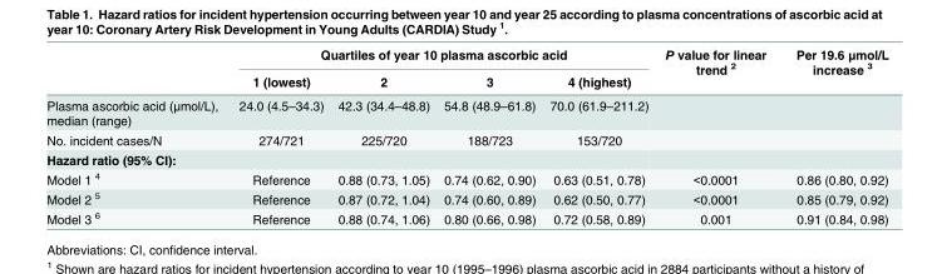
<table><thead><tr><td rowspan="2"></td><td colspan="4">Quartiles of year 10 plasma ascorbic acid</td><td rowspan="2">P value for linear trend <sup>2</sup></td><td rowspan="2">Per 19.6 μmol/L increase <sup>3</sup></td></tr><tr><td>1 (lowest)</td><td>2</td><td>3</td><td>4 (highest)</td></tr></thead><tbody><tr><td>Plasma ascorbic acid (μmol/L), median (range)</td><td>24.0 (4.5–34.3)</td><td>42.3 (34.4–48.8)</td><td>54.8 (48.9–61.8)</td><td>70.0 (61.9–211.2)</td><td></td><td></td></tr><tr><td>No. incident cases/N</td><td>274/721</td><td>225/720</td><td>188/723</td><td>153/720</td><td></td><td></td></tr><tr><td colspan="7">Hazard ratio (95% CI):</td></tr><tr><td>Model 1 <sup>4</sup></td><td>Reference</td><td>0.88 (0.73, 1.05)</td><td>0.74 (0.62, 0.90)</td><td>0.63 (0.51, 0.78)</td><td>&lt;0.0001</td><td>0.86 (0.80, 0.92)</td></tr><tr><td>Model 2 <sup>5</sup></td><td>Reference</td><td>0.87 (0.72, 1.04)</td><td>0.74 (0.60, 0.89)</td><td>0.62 (0.50, 0.77)</td><td>&lt;0.0001</td><td>0.85 (0.79, 0.92)</td></tr><tr><td>Model 3 <sup>6</sup></td><td>Reference</td><td>0.88 (0.74, 1.06)</td><td>0.80 (0.66, 0.98)</td><td>0.72 (0.58, 0.89)</td><td>0.001</td><td>0.91 (0.84, 0.98)</td></tr></tbody></table>